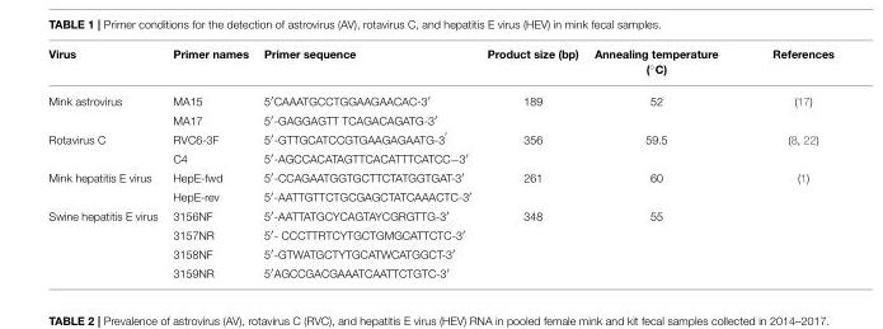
<table><thead><tr><td>Virus</td><td>Primer names</td><td>Primer sequence</td><td>Product size (bp)</td><td>Annealing temperature (◦C)</td><td>References</td></tr></thead><tbody><tr><td rowspan="2">Mink astrovirus</td><td>MA15</td><td>5′CAAATGCCTGGAAGAACAC-3′</td><td>189</td><td>52</td><td>(17)</td></tr><tr><td>MA17</td><td>5′-GAGGAGTT TCAGACAGATG-3′</td><td></td><td></td><td></td></tr><tr><td rowspan="2">Rotavirus C</td><td>RVC6-3F</td><td>5′-GTTGCATCCGTGAAGAGAATG-3 ′</td><td>356</td><td>59.5</td><td>(8, 22)</td></tr><tr><td>C4</td><td>5′-AGCCACATAGTTCACATTTCATCC−3′</td><td></td><td></td><td></td></tr><tr><td rowspan="2">Mink hepatitis E virus</td><td>HepE-fwd</td><td>5′-CCAGAATGGTGCTTCTATGGTGAT-3′</td><td>261</td><td>60</td><td>(1)</td></tr><tr><td>HepE-rev</td><td>5′-AATTGTTCTGCGAGCTATCAAACTC-3′</td><td></td><td></td><td></td></tr><tr><td rowspan="4">Swine hepatitis E virus</td><td>3156NF</td><td>5′-AATTATGCYCAGTAYCGRGTTG-3′</td><td>348</td><td>55</td><td></td></tr><tr><td>3157NR</td><td>5′- CCCTTRTCYTGCTGMGCATTCTC-3′</td><td></td><td></td><td></td></tr><tr><td>3158NF</td><td>5′-GTWATGCTYTGCATWCATGGCT-3′</td><td></td><td></td><td></td></tr><tr><td>3159NR</td><td>5′AGCCGACGAAATCAATTCTGTC-3′</td><td></td><td></td><td></td></tr></tbody></table>